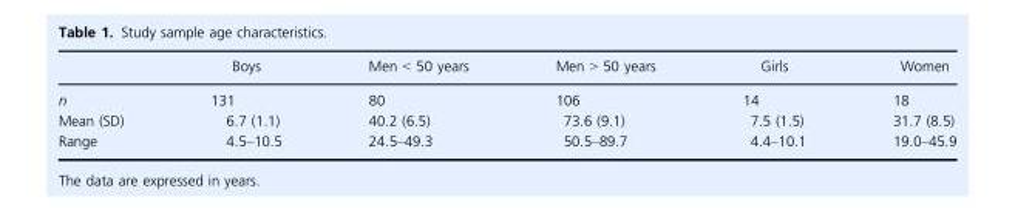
<table><thead><tr><td></td><td>Boys</td><td>Men &lt; 50 years</td><td>Men &gt; 50 years</td><td>Girls</td><td>Women</td></tr></thead><tbody><tr><td>n</td><td>131</td><td>80</td><td>106</td><td>14</td><td>18</td></tr><tr><td>Mean (SD)</td><td>6.7 (1.1)</td><td>40.2 (6.5)</td><td>73.6 (9.1)</td><td>7.5 (1.5)</td><td>31.7 (8.5)</td></tr><tr><td>Range</td><td>4.5–10.5</td><td>24.5–49.3</td><td>50.5–89.7</td><td>4.4–10.1</td><td>19.0–45.9</td></tr></tbody></table>